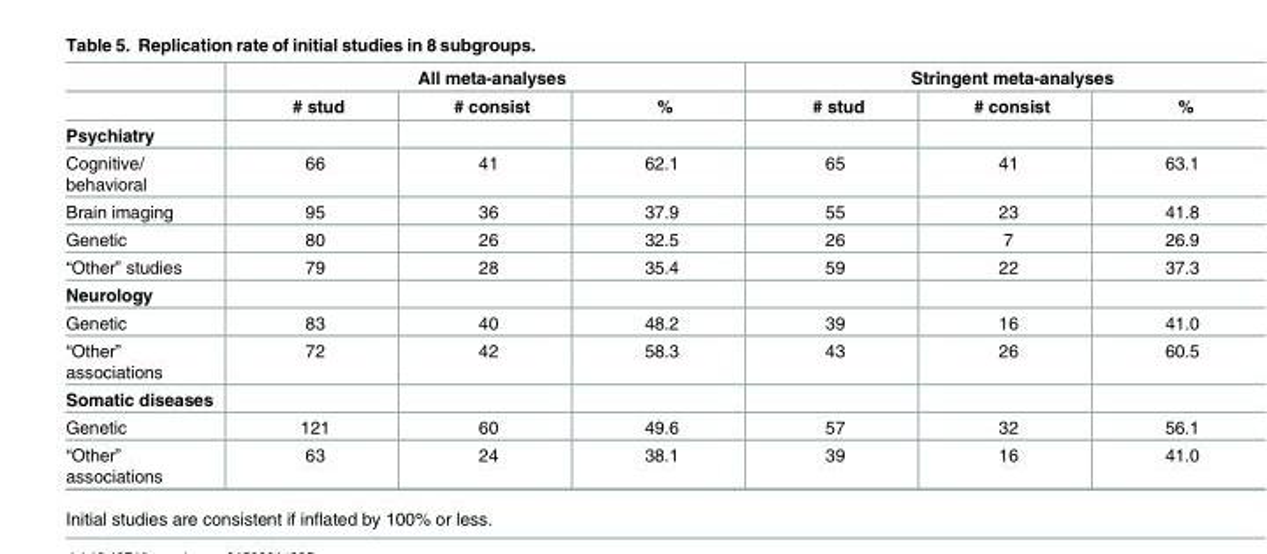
<table><thead><tr><td rowspan="2"></td><td colspan="3">All meta-analyses</td><td colspan="3">Stringent meta-analyses</td></tr><tr><td># stud</td><td># consist</td><td>%</td><td># stud</td><td># consist</td><td>%</td></tr></thead><tbody><tr><td colspan="7">Psychiatry</td></tr><tr><td>Cognitive/ behavioral</td><td>66</td><td>41</td><td>62.1</td><td>65</td><td>41</td><td>63.1</td></tr><tr><td>Brain imaging</td><td>95</td><td>36</td><td>37.9</td><td>55</td><td>23</td><td>41.8</td></tr><tr><td>Genetic</td><td>80</td><td>26</td><td>32.5</td><td>26</td><td>7</td><td>26.9</td></tr><tr><td>“Other” studies</td><td>79</td><td>28</td><td>35.4</td><td>59</td><td>22</td><td>37.3</td></tr><tr><td colspan="7">Neurology</td></tr><tr><td>Genetic</td><td>83</td><td>40</td><td>48.2</td><td>39</td><td>16</td><td>41.0</td></tr><tr><td>“Other” associations</td><td>72</td><td>42</td><td>58.3</td><td>43</td><td>26</td><td>60.5</td></tr><tr><td colspan="7">Somatic diseases</td></tr><tr><td>Genetic</td><td>121</td><td>60</td><td>49.6</td><td>57</td><td>32</td><td>56.1</td></tr><tr><td>“Other” associations</td><td>63</td><td>24</td><td>38.1</td><td>39</td><td>16</td><td>41.0</td></tr></tbody></table>